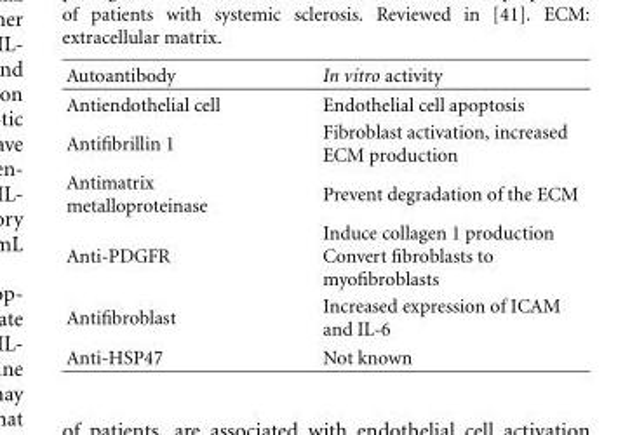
<table><thead><tr><td>Autoantibody</td><td>In vitro activity</td></tr></thead><tbody><tr><td>Antiendothelial cell</td><td>Endothelial cell apoptosis</td></tr><tr><td>Antifibrillin 1</td><td>Fibroblast activation, increased ECM production</td></tr><tr><td>Antimatrix metalloproteinase</td><td>Prevent degradation of the ECM</td></tr><tr><td>Anti-PDGFR</td><td>Induce collagen 1 production Convert fibroblasts to myofibroblasts</td></tr><tr><td>Antifibroblast</td><td>Increased expression of ICAM and IL-6</td></tr><tr><td>Anti-HSP47</td><td>Not known</td></tr></tbody></table>